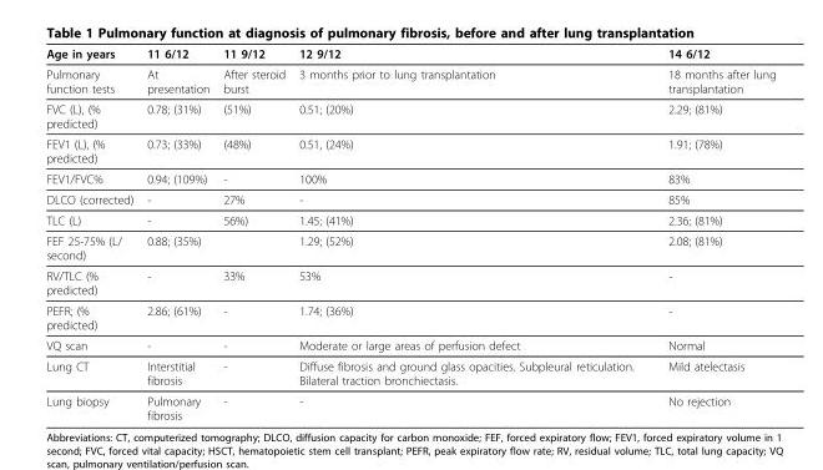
<table><thead><tr><td>Age in years</td><td>11 6/12</td><td>11 9/12</td><td>12 9/12</td><td>14 6/12</td></tr></thead><tbody><tr><td>Pulmonary function tests</td><td>At presentation</td><td>After steroid burst</td><td>3 months prior to lung transplantation</td><td>18 months after lung transplantation</td></tr><tr><td>FVC (L), (% predicted)</td><td>0.78; (31%)</td><td>(51%)</td><td>0.51; (20%)</td><td>2.29; (81%)</td></tr><tr><td>FEV1 (L), (% predicted)</td><td>0.73; (33%)</td><td>(48%)</td><td>0.51, (24%)</td><td>1.91; (78%)</td></tr><tr><td>FEV1/FVC%</td><td>0.94; (109%)</td><td>-</td><td>100%</td><td>83%</td></tr><tr><td>DLCO (corrected)</td><td>-</td><td>27%</td><td>-</td><td>85%</td></tr><tr><td>TLC (L)</td><td>-</td><td>56%)</td><td>1.45; (41%)</td><td>2.36; (81%)</td></tr><tr><td>FEF 25-75% (L/ second)</td><td>0.88; (35%)</td><td></td><td>1.29; (52%)</td><td>2.08; (81%)</td></tr><tr><td>RV/TLC (% predicted)</td><td>-</td><td>33%</td><td>53%</td><td>-</td></tr><tr><td>PEFR; (% predicted)</td><td>2.86; (61%)</td><td>-</td><td>1.74; (36%)</td><td>-</td></tr><tr><td>VQ scan</td><td>-</td><td>-</td><td>Moderate or large areas of perfusion defect</td><td>Normal</td></tr><tr><td>Lung CT</td><td>Interstitial fibrosis</td><td>-</td><td>Diffuse fibrosis and ground glass opacities. Subpleural reticulation. Bilateral traction bronchiectasis.</td><td>Mild atelectasis</td></tr><tr><td>Lung biopsy</td><td>Pulmonary fibrosis</td><td>-</td><td>-</td><td>No rejection</td></tr></tbody></table>